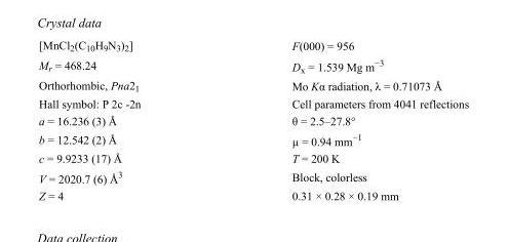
<table><tbody><tr><td>[MnCl<sub>2</sub>(C<sub>10</sub>H<sub>9</sub>N<sub>3</sub>)<sub>2</sub>]</td><td>F(000) = 956</td></tr><tr><td>M<sub>r</sub> = 468.24</td><td>D<sub>x</sub> = 1.539 Mg m<sup>−3</sup></td></tr><tr><td>Orthorhombic, Pna2<sub>1</sub></td><td>Mo Kα radiation, λ = 0.71073 Å</td></tr><tr><td>Hall symbol: P 2c -2n</td><td>Cell parameters from 4041 reflections</td></tr><tr><td>a = 16.236 (3) Å</td><td>θ = 2.5–27.8°</td></tr><tr><td>b = 12.542 (2) Å</td><td>µ = 0.94 mm<sup>−1</sup></td></tr><tr><td>c = 9.9233 (17) Å</td><td>T = 200 K</td></tr><tr><td>V = 2020.7 (6) Å<sup>3</sup></td><td>Block, colorless</td></tr><tr><td>Z = 4</td><td>0.31 × 0.28 × 0.19 mm</td></tr></tbody></table>